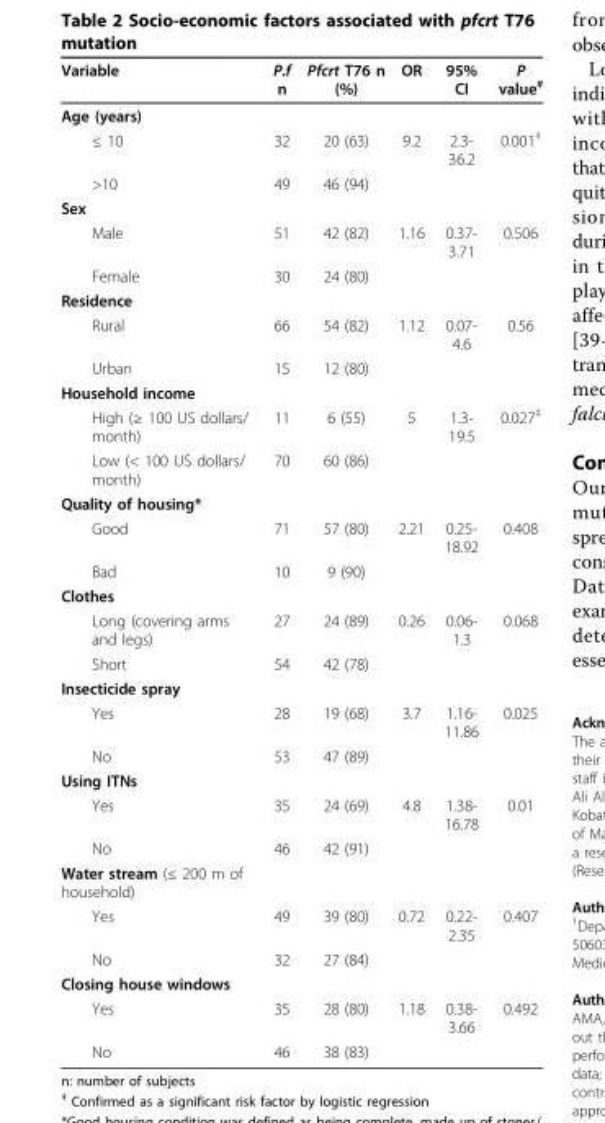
<table><thead><tr><td>Variable</td><td>P.f n</td><td>Pfcrt T76 n (%)</td><td>OR</td><td>95% CI</td><td>P value<sup>#</sup></td></tr></thead><tbody><tr><td colspan="6">Age (years)</td></tr><tr><td>≤ 10</td><td>32</td><td>20 (63)</td><td>9.2</td><td>2.3- 36.2</td><td>0.001<sup>‡</sup></td></tr><tr><td>&gt;10</td><td>49</td><td>46 (94)</td><td></td><td></td><td></td></tr><tr><td colspan="6">Sex</td></tr><tr><td>Male</td><td>51</td><td>42 (82)</td><td>1.16</td><td>0.37- 3.71</td><td>0.506</td></tr><tr><td>Female</td><td>30</td><td>24 (80)</td><td></td><td></td><td></td></tr><tr><td colspan="6">Residence</td></tr><tr><td>Rural</td><td>66</td><td>54 (82)</td><td>1.12</td><td>0.07- 4.6</td><td>0.56</td></tr><tr><td>Urban</td><td>15</td><td>12 (80)</td><td></td><td></td><td></td></tr><tr><td colspan="6">Household income</td></tr><tr><td>High (≥ 100 US dollars/ month)</td><td>11</td><td>6 (55)</td><td>5</td><td>1.3- 19.5</td><td>0.027<sup>‡</sup></td></tr><tr><td>Low (&lt; 100 US dollars/ month)</td><td>70</td><td>60 (86)</td><td></td><td></td><td></td></tr><tr><td colspan="6">Quality of housing*</td></tr><tr><td>Good</td><td>71</td><td>57 (80)</td><td>2.21</td><td>0.25- 18.92</td><td>0.408</td></tr><tr><td>Bad</td><td>10</td><td>9 (90)</td><td></td><td></td><td></td></tr><tr><td colspan="6">Clothes</td></tr><tr><td>Long (covering arms and legs)</td><td>27</td><td>24 (89)</td><td>0.26</td><td>0.06- 1.3</td><td>0.068</td></tr><tr><td>Short</td><td>54</td><td>42 (78)</td><td></td><td></td><td></td></tr><tr><td colspan="6">Insecticide spray</td></tr><tr><td>Yes</td><td>28</td><td>19 (68)</td><td>3.7</td><td>1.16- 11.86</td><td>0.025</td></tr><tr><td>No</td><td>53</td><td>47 (89)</td><td></td><td></td><td></td></tr><tr><td colspan="6">Using ITNs</td></tr><tr><td>Yes</td><td>35</td><td>24 (69)</td><td>4.8</td><td>1.38- 16.78</td><td>0.01</td></tr><tr><td>No</td><td>46</td><td>42 (91)</td><td></td><td></td><td></td></tr><tr><td colspan="6">Water stream (≤ 200 m of household)</td></tr><tr><td>Yes</td><td>49</td><td>39 (80)</td><td>0.72</td><td>0.22- 2.35</td><td>0.407</td></tr><tr><td>No</td><td>32</td><td>27 (84)</td><td></td><td></td><td></td></tr><tr><td colspan="6">Closing house windows</td></tr><tr><td>Yes</td><td>35</td><td>28 (80)</td><td>1.18</td><td>0.38- 3.66</td><td>0.492</td></tr><tr><td>No</td><td>46</td><td>38 (83)</td><td></td><td></td><td></td></tr></tbody></table>